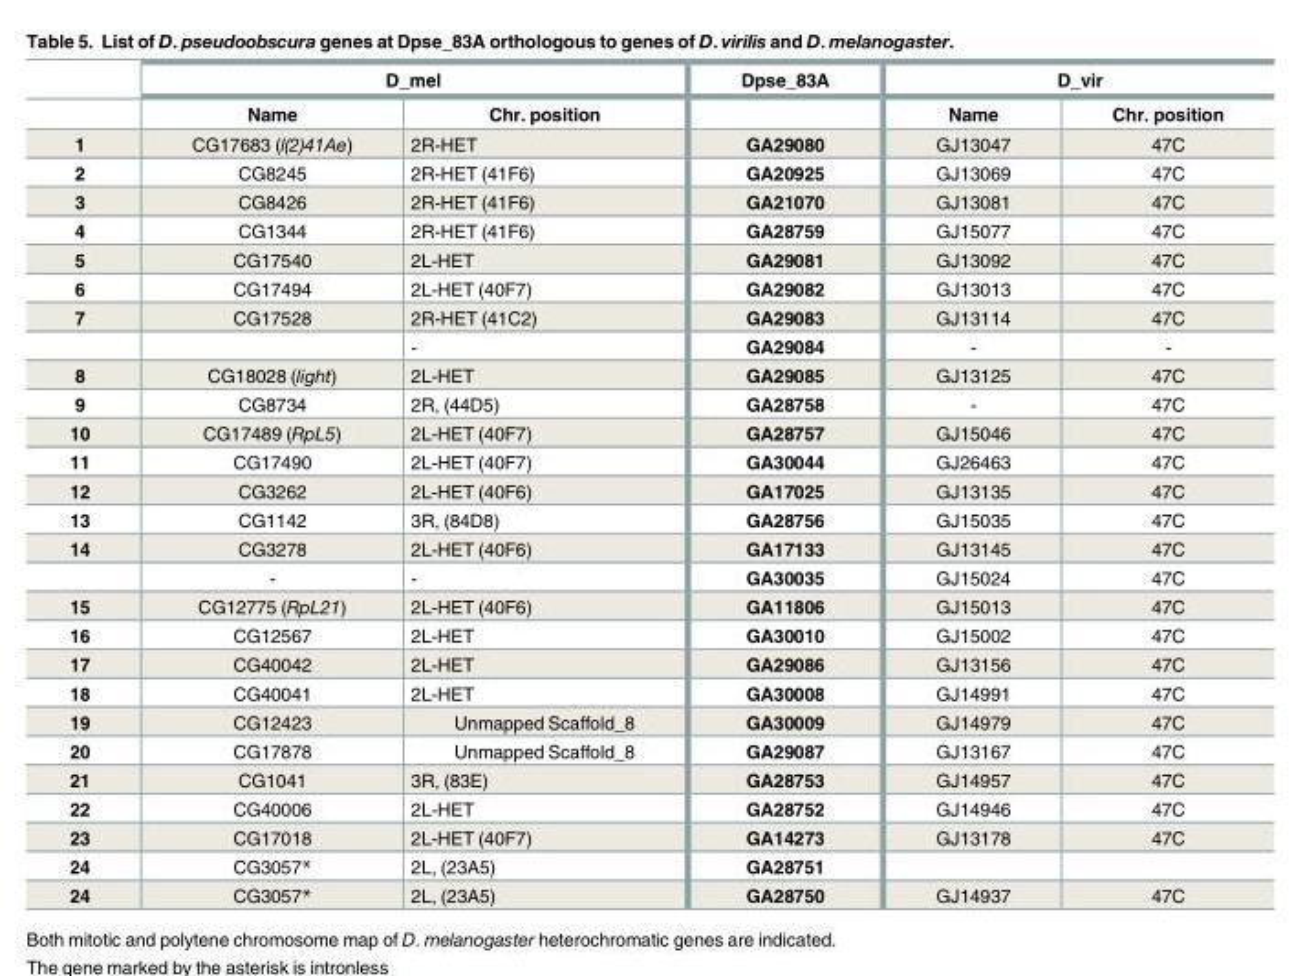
<table><thead><tr><td rowspan="2"></td><td colspan="2">D_mel</td><td rowspan="2">Dpse_83A</td><td colspan="2">D_vir</td></tr><tr><td>Name</td><td>Chr. position</td><td>Name</td><td>Chr. position</td></tr></thead><tbody><tr><td>1</td><td>CG17683 (l(2)41Ae)</td><td>2R-HET</td><td>GA29080</td><td>GJ13047</td><td>47C</td></tr><tr><td>2</td><td>CG8245</td><td>2R-HET (41F6)</td><td>GA20925</td><td>GJ13069</td><td>47C</td></tr><tr><td>3</td><td>CG8426</td><td>2R-HET (41F6)</td><td>GA21070</td><td>GJ13081</td><td>47C</td></tr><tr><td>4</td><td>CG1344</td><td>2R-HET (41F6)</td><td>GA28759</td><td>GJ15077</td><td>47C</td></tr><tr><td>5</td><td>CG17540</td><td>2L-HET</td><td>GA29081</td><td>GJ13092</td><td>47C</td></tr><tr><td>6</td><td>CG17494</td><td>2L-HET (40F7)</td><td>GA29082</td><td>GJ13013</td><td>47C</td></tr><tr><td rowspan="2">7</td><td>CG17528</td><td>2R-HET (41C2)</td><td>GA29083</td><td>GJ13114</td><td>47C</td></tr><tr><td></td><td>-</td><td>GA29084</td><td>-</td><td>-</td></tr><tr><td>8</td><td>CG18028 (light)</td><td>2L-HET</td><td>GA29085</td><td>GJ13125</td><td>47C</td></tr><tr><td>9</td><td>CG8734</td><td>2R, (44D5)</td><td>GA28758</td><td>-</td><td>47C</td></tr><tr><td>10</td><td>CG17489 (RpL5)</td><td>2L-HET (40F7)</td><td>GA28757</td><td>GJ15046</td><td>47C</td></tr><tr><td>11</td><td>CG17490</td><td>2L-HET (40F7)</td><td>GA30044</td><td>GJ26463</td><td>47C</td></tr><tr><td>12</td><td>CG3262</td><td>2L-HET (40F6)</td><td>GA17025</td><td>GJ13135</td><td>47C</td></tr><tr><td>13</td><td>CG1142</td><td>3R, (84D8)</td><td>GA28756</td><td>GJ15035</td><td>47C</td></tr><tr><td rowspan="2">14</td><td>CG3278</td><td>2L-HET (40F6)</td><td>GA17133</td><td>GJ13145</td><td>47C</td></tr><tr><td>-</td><td>-</td><td>GA30035</td><td>GJ15024</td><td>47C</td></tr><tr><td>15</td><td>CG12775 (RpL21)</td><td>2L-HET (40F6)</td><td>GA11806</td><td>GJ15013</td><td>47C</td></tr><tr><td>16</td><td>CG12567</td><td>2L-HET</td><td>GA30010</td><td>GJ15002</td><td>47C</td></tr><tr><td>17</td><td>CG40042</td><td>2L-HET</td><td>GA29086</td><td>GJ13156</td><td>47C</td></tr><tr><td>18</td><td>CG40041</td><td>2L-HET</td><td>GA30008</td><td>GJ14991</td><td>47C</td></tr><tr><td>19</td><td>CG12423</td><td>Unmapped Scaffold_8</td><td>GA30009</td><td>GJ14979</td><td>47C</td></tr><tr><td>20</td><td>CG17878</td><td>Unmapped Scaffold_8</td><td>GA29087</td><td>GJ13167</td><td>47C</td></tr><tr><td>21</td><td>CG1041</td><td>3R, (83E)</td><td>GA28753</td><td>GJ14957</td><td>47C</td></tr><tr><td>22</td><td>CG40006</td><td>2L-HET</td><td>GA28752</td><td>GJ14946</td><td>47C</td></tr><tr><td>23</td><td>CG17018</td><td>2L-HET (40F7)</td><td>GA14273</td><td>GJ13178</td><td>47C</td></tr><tr><td>24</td><td>CG3057*</td><td>2L, (23A5)</td><td>GA28751</td><td></td><td></td></tr><tr><td>24</td><td>CG3057*</td><td>2L, (23A5)</td><td>GA28750</td><td>GJ14937</td><td>47C</td></tr></tbody></table>